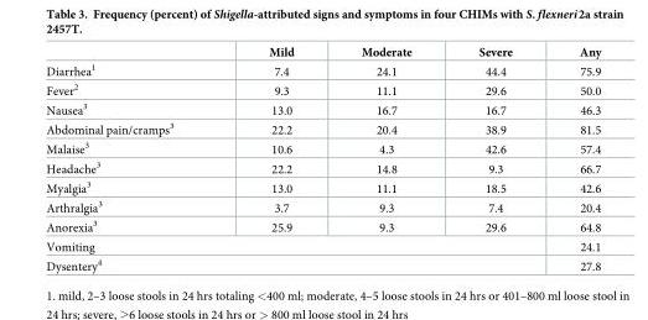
<table><thead><tr><td></td><td>Mild</td><td>Moderate</td><td>Severe</td><td>Any</td></tr></thead><tbody><tr><td>Diarrhea<sup>1</sup></td><td>7.4</td><td>24.1</td><td>44.4</td><td>75.9</td></tr><tr><td>Fever<sup>2</sup></td><td>9.3</td><td>11.1</td><td>29.6</td><td>50.0</td></tr><tr><td>Nausea<sup>3</sup></td><td>13.0</td><td>16.7</td><td>16.7</td><td>46.3</td></tr><tr><td>Abdominal pain/cramps<sup>3</sup></td><td>22.2</td><td>20.4</td><td>38.9</td><td>81.5</td></tr><tr><td>Malaise<sup>3</sup></td><td>10.6</td><td>4.3</td><td>42.6</td><td>57.4</td></tr><tr><td>Headache<sup>3</sup></td><td>22.2</td><td>14.8</td><td>9.3</td><td>66.7</td></tr><tr><td>Myalgia<sup>3</sup></td><td>13.0</td><td>11.1</td><td>18.5</td><td>42.6</td></tr><tr><td>Arthralgia<sup>3</sup></td><td>3.7</td><td>9.3</td><td>7.4</td><td>20.4</td></tr><tr><td>Anorexia<sup>3</sup></td><td>25.9</td><td>9.3</td><td>29.6</td><td>64.8</td></tr><tr><td colspan="4">Vomiting</td><td>24.1</td></tr><tr><td colspan="4">Dysentery<sup>4</sup></td><td>27.8</td></tr></tbody></table>